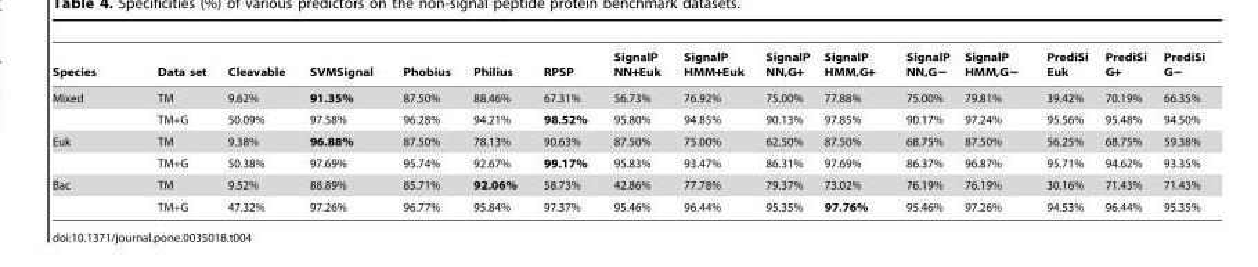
<table><thead><tr><td>Species</td><td>Data set</td><td>Cleavable</td><td>SVMSignal</td><td>Phobius</td><td>Philius</td><td>RPSP</td><td>SignalP NN+Euk</td><td>SignalP HMM+Euk</td><td>SignalP NN,G+</td><td>SignalP HMM,G+</td><td>SignalP NN,G−</td><td>SignalP HMM,G−</td><td>PrediSi Euk</td><td>PrediSi G+</td><td>PrediSi G−</td></tr></thead><tbody><tr><td rowspan="2">Mixed</td><td>TM</td><td>9.62%</td><td>91.35%</td><td>87.50%</td><td>88.46%</td><td>67.31%</td><td>56.73%</td><td>76.92%</td><td>75.00%</td><td>77.88%</td><td>75.00%</td><td>79.81%</td><td>39.42%</td><td>70.19%</td><td>66.35%</td></tr><tr><td>TM+G</td><td>50.09%</td><td>97.58%</td><td>96.28%</td><td>94.21%</td><td>98.52%</td><td>95.80%</td><td>94.85%</td><td>90.13%</td><td>97.85%</td><td>90.17%</td><td>97.24%</td><td>95.56%</td><td>95.48%</td><td>94.50%</td></tr><tr><td rowspan="2">Euk</td><td>TM</td><td>9.38%</td><td>96.88%</td><td>87.50%</td><td>78.13%</td><td>90.63%</td><td>87.50%</td><td>75.00%</td><td>62.50%</td><td>87.50%</td><td>68.75%</td><td>87.50%</td><td>56.25%</td><td>68.75%</td><td>59.38%</td></tr><tr><td>TM+G</td><td>50.38%</td><td>97.69%</td><td>95.74%</td><td>92.67%</td><td>99.17%</td><td>95.83%</td><td>93.47%</td><td>86.31%</td><td>97.69%</td><td>86.37%</td><td>96.87%</td><td>95.71%</td><td>94.62%</td><td>93.35%</td></tr><tr><td rowspan="2">Bac</td><td>TM</td><td>9.52%</td><td>88.89%</td><td>85.71%</td><td>92.06%</td><td>58.73%</td><td>42.86%</td><td>77.78%</td><td>79.37%</td><td>73.02%</td><td>76.19%</td><td>76.19%</td><td>30.16%</td><td>71.43%</td><td>71.43%</td></tr><tr><td>TM+G</td><td>47.32%</td><td>97.26%</td><td>96.77%</td><td>95.84%</td><td>97.37%</td><td>95.46%</td><td>96.44%</td><td>95.35%</td><td>97.76%</td><td>95.46%</td><td>97.26%</td><td>94.53%</td><td>96.44%</td><td>95.35%</td></tr></tbody></table>